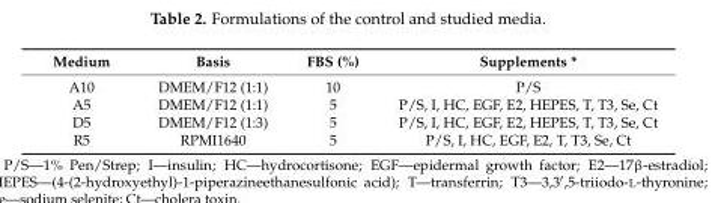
<table><thead><tr><td>Medium</td><td>Basis</td><td>FBS (%)</td><td>Supplements *</td></tr></thead><tbody><tr><td>A10</td><td>DMEM/F12 (1:1)</td><td>10</td><td>P/S</td></tr><tr><td>A5</td><td>DMEM/F12 (1:1)</td><td>5</td><td>P/S, I, HC, EGF, E2, HEPES, T, T3, Se, Ct</td></tr><tr><td>D5</td><td>DMEM/F12 (1:3)</td><td>5</td><td>P/S, I, HC, EGF, E2, HEPES, T, T3, Se, Ct</td></tr><tr><td>R5</td><td>RPMI1640</td><td>5</td><td>P/S, I, HC, EGF, E2, T, T3, Se, Ct</td></tr></tbody></table>